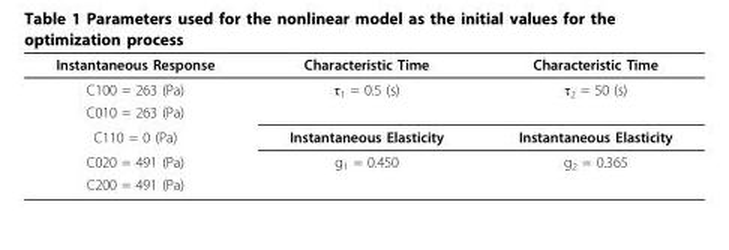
<table><thead><tr><td>Instantaneous Response</td><td>Characteristic Time</td><td>Characteristic Time</td></tr></thead><tbody><tr><td>C100 = 263 (Pa)</td><td>τ<sub>1</sub> = 0.5 (s)</td><td>τ<sub>2</sub> = 50 (s)</td></tr><tr><td colspan="3">C010 = 263 (Pa)</td></tr><tr><td>C110 = 0 (Pa)</td><td>Instantaneous Elasticity</td><td>Instantaneous Elasticity</td></tr><tr><td>C020 = 491 (Pa)</td><td>g<sub>1</sub> = 0.450</td><td>g<sub>2</sub> = 0.365</td></tr><tr><td>C200 = 491 (Pa)</td><td></td><td></td></tr></tbody></table>